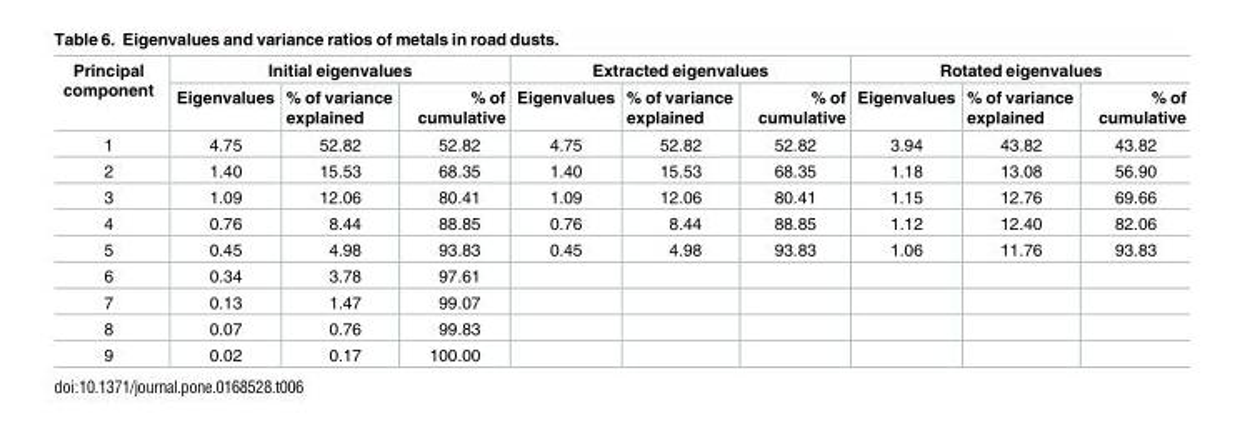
<table><thead><tr><td rowspan="2">Principal component</td><td colspan="3">Initial eigenvalues</td><td colspan="3">Extracted eigenvalues</td><td colspan="3">Rotated eigenvalues</td></tr><tr><td>Eigenvalues</td><td>% of variance explained</td><td>% of cumulative</td><td>Eigenvalues</td><td>% of variance explained</td><td>% of cumulative</td><td>Eigenvalues</td><td>% of variance explained</td><td>% of cumulative</td></tr></thead><tbody><tr><td>1</td><td>4.75</td><td>52.82</td><td>52.82</td><td>4.75</td><td>52.82</td><td>52.82</td><td>3.94</td><td>43.82</td><td>43.82</td></tr><tr><td>2</td><td>1.40</td><td>15.53</td><td>68.35</td><td>1.40</td><td>15.53</td><td>68.35</td><td>1.18</td><td>13.08</td><td>56.90</td></tr><tr><td>3</td><td>1.09</td><td>12.06</td><td>80.41</td><td>1.09</td><td>12.06</td><td>80.41</td><td>1.15</td><td>12.76</td><td>69.66</td></tr><tr><td>4</td><td>0.76</td><td>8.44</td><td>88.85</td><td>0.76</td><td>8.44</td><td>88.85</td><td>1.12</td><td>12.40</td><td>82.06</td></tr><tr><td>5</td><td>0.45</td><td>4.98</td><td>93.83</td><td>0.45</td><td>4.98</td><td>93.83</td><td>1.06</td><td>11.76</td><td>93.83</td></tr><tr><td>6</td><td>0.34</td><td>3.78</td><td>97.61</td><td></td><td></td><td></td><td></td><td></td><td></td></tr><tr><td>7</td><td>0.13</td><td>1.47</td><td>99.07</td><td></td><td></td><td></td><td></td><td></td><td></td></tr><tr><td>8</td><td>0.07</td><td>0.76</td><td>99.83</td><td></td><td></td><td></td><td></td><td></td><td></td></tr><tr><td>9</td><td>0.02</td><td>0.17</td><td>100.00</td><td></td><td></td><td></td><td></td><td></td><td></td></tr></tbody></table>